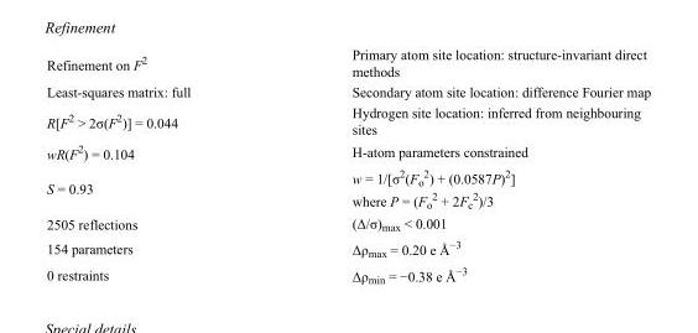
<table><tbody><tr><td>Refinement on F<sup>2</sup></td><td>Primary atom site location: structure-invariant direct methods</td></tr><tr><td>Least-squares matrix: full</td><td>Secondary atom site location: difference Fourier map</td></tr><tr><td>R[F<sup>2</sup> &gt; 2σ(F<sup>2</sup>)] = 0.044</td><td>Hydrogen site location: inferred from neighbouring sites</td></tr><tr><td>wR(F<sup>2</sup>) = 0.104</td><td>H-atom parameters constrained</td></tr><tr><td>S = 0.93</td><td>w = 1/[σ<sup>2</sup>(F<sub>o</sub> <sup>2</sup>) + (0.0587P)<sup>2</sup>] where P = (F<sub>o</sub> <sup>2</sup> + 2F<sub>c</sub> <sup>2</sup>)/3</td></tr><tr><td>2505 reflections</td><td>(Δ/σ)<sub>max</sub> &lt; 0.001</td></tr><tr><td>154 parameters</td><td>Δρ<sub>max</sub> = 0.20 e Å<sup>−3</sup></td></tr><tr><td>0 restraints</td><td>Δρ<sub>min</sub> = −0.38 e Å<sup>−3</sup></td></tr></tbody></table>